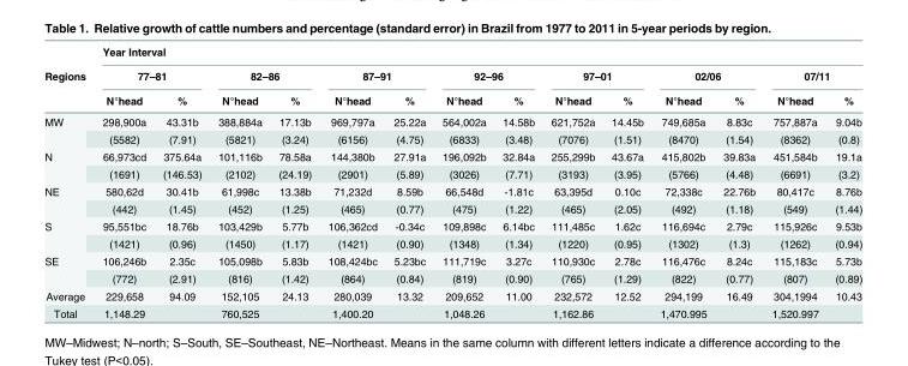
<table><thead><tr><td rowspan="3">Regions</td><td colspan="14">Year Interval</td></tr><tr><td colspan="2">77–81</td><td colspan="2">82–86</td><td colspan="2">87–91</td><td colspan="2">92–96</td><td colspan="2">97–01</td><td colspan="2">02/06</td><td colspan="2">07/11</td></tr><tr><td>N°head</td><td>%</td><td>N°head</td><td>%</td><td>N°head</td><td>%</td><td>N°head</td><td>%</td><td>N°head</td><td>%</td><td>N°head</td><td>%</td><td>N°head</td><td>%</td></tr></thead><tbody><tr><td rowspan="2">MW</td><td>298,900a</td><td>43.31b</td><td>388,884a</td><td>17.13b</td><td>969,797a</td><td>25.22a</td><td>564,002a</td><td>14.58b</td><td>621,752a</td><td>14.45b</td><td>749,685a</td><td>8.83c</td><td>757,887a</td><td>9.04b</td></tr><tr><td>(5582)</td><td>(7.91)</td><td>(5821)</td><td>(3.24)</td><td>(6156)</td><td>(4.75)</td><td>(6833)</td><td>(3.48)</td><td>(7076)</td><td>(1.51)</td><td>(8470)</td><td>(1.54)</td><td>(8362)</td><td>(0.8)</td></tr><tr><td rowspan="2">N</td><td>66,973cd</td><td>375.64a</td><td>101,116b</td><td>78.58a</td><td>144,380b</td><td>27.91a</td><td>196,092b</td><td>32.84a</td><td>255,299b</td><td>43.67a</td><td>415,802b</td><td>39.83a</td><td>451,584b</td><td>19.1a</td></tr><tr><td>(1691)</td><td>(146.53)</td><td>(2102)</td><td>(24.19)</td><td>(2901)</td><td>(5.89)</td><td>(3026)</td><td>(7.71)</td><td>(3193)</td><td>(3.95)</td><td>(5766)</td><td>(4.48)</td><td>(6691)</td><td>(3.2)</td></tr><tr><td rowspan="2">NE</td><td>580,62d</td><td>30.41b</td><td>61,998c</td><td>13.38b</td><td>71,232d</td><td>8.59b</td><td>66,548d</td><td>-1.81c</td><td>63,395d</td><td>0.10c</td><td>72,338c</td><td>22.76b</td><td>80,417c</td><td>8.76b</td></tr><tr><td>(442)</td><td>(1.45)</td><td>(452)</td><td>(1.25)</td><td>(465)</td><td>(0.77)</td><td>(475)</td><td>(1.22)</td><td>(465)</td><td>(2.05)</td><td>(492)</td><td>(1.18)</td><td>(549)</td><td>(1.44)</td></tr><tr><td rowspan="2">S</td><td>95,551bc</td><td>18.76b</td><td>103,429b</td><td>5.77b</td><td>106,362cd</td><td>-0.34c</td><td>109,898c</td><td>6.14bc</td><td>111,485c</td><td>1.62c</td><td>116,694c</td><td>2.79c</td><td>115,926c</td><td>9.53b</td></tr><tr><td>(1421)</td><td>(0.96)</td><td>(1450)</td><td>(1.17)</td><td>(1421)</td><td>(0.90)</td><td>(1348)</td><td>(1.34)</td><td>(1220)</td><td>(0.95)</td><td>(1302)</td><td>(1.3)</td><td>(1262)</td><td>(0.94)</td></tr><tr><td rowspan="2">SE</td><td>106,246b</td><td>2.35c</td><td>105,098b</td><td>5.83b</td><td>108,424bc</td><td>5.23bc</td><td>111,719c</td><td>3.27c</td><td>110,930c</td><td>2.78c</td><td>116,476c</td><td>8.24c</td><td>115,183c</td><td>5.73b</td></tr><tr><td>(772)</td><td>(2.91)</td><td>(816)</td><td>(1.42)</td><td>(864)</td><td>(0.84)</td><td>(819)</td><td>(0.90)</td><td>(765)</td><td>(1.29)</td><td>(822)</td><td>(0.77)</td><td>(807)</td><td>(0.89)</td></tr><tr><td>Average</td><td>229,658</td><td>94.09</td><td>152,105</td><td>24.13</td><td>280,039</td><td>13.32</td><td>209,652</td><td>11.00</td><td>232,572</td><td>12.52</td><td>294,199</td><td>16.49</td><td>304,1994</td><td>10.43</td></tr><tr><td>Total</td><td>1,148.29</td><td></td><td>760,525</td><td></td><td>1,400.20</td><td></td><td>1,048.26</td><td></td><td>1,162.86</td><td></td><td>1,470.995</td><td></td><td>1,520.997</td><td></td></tr></tbody></table>